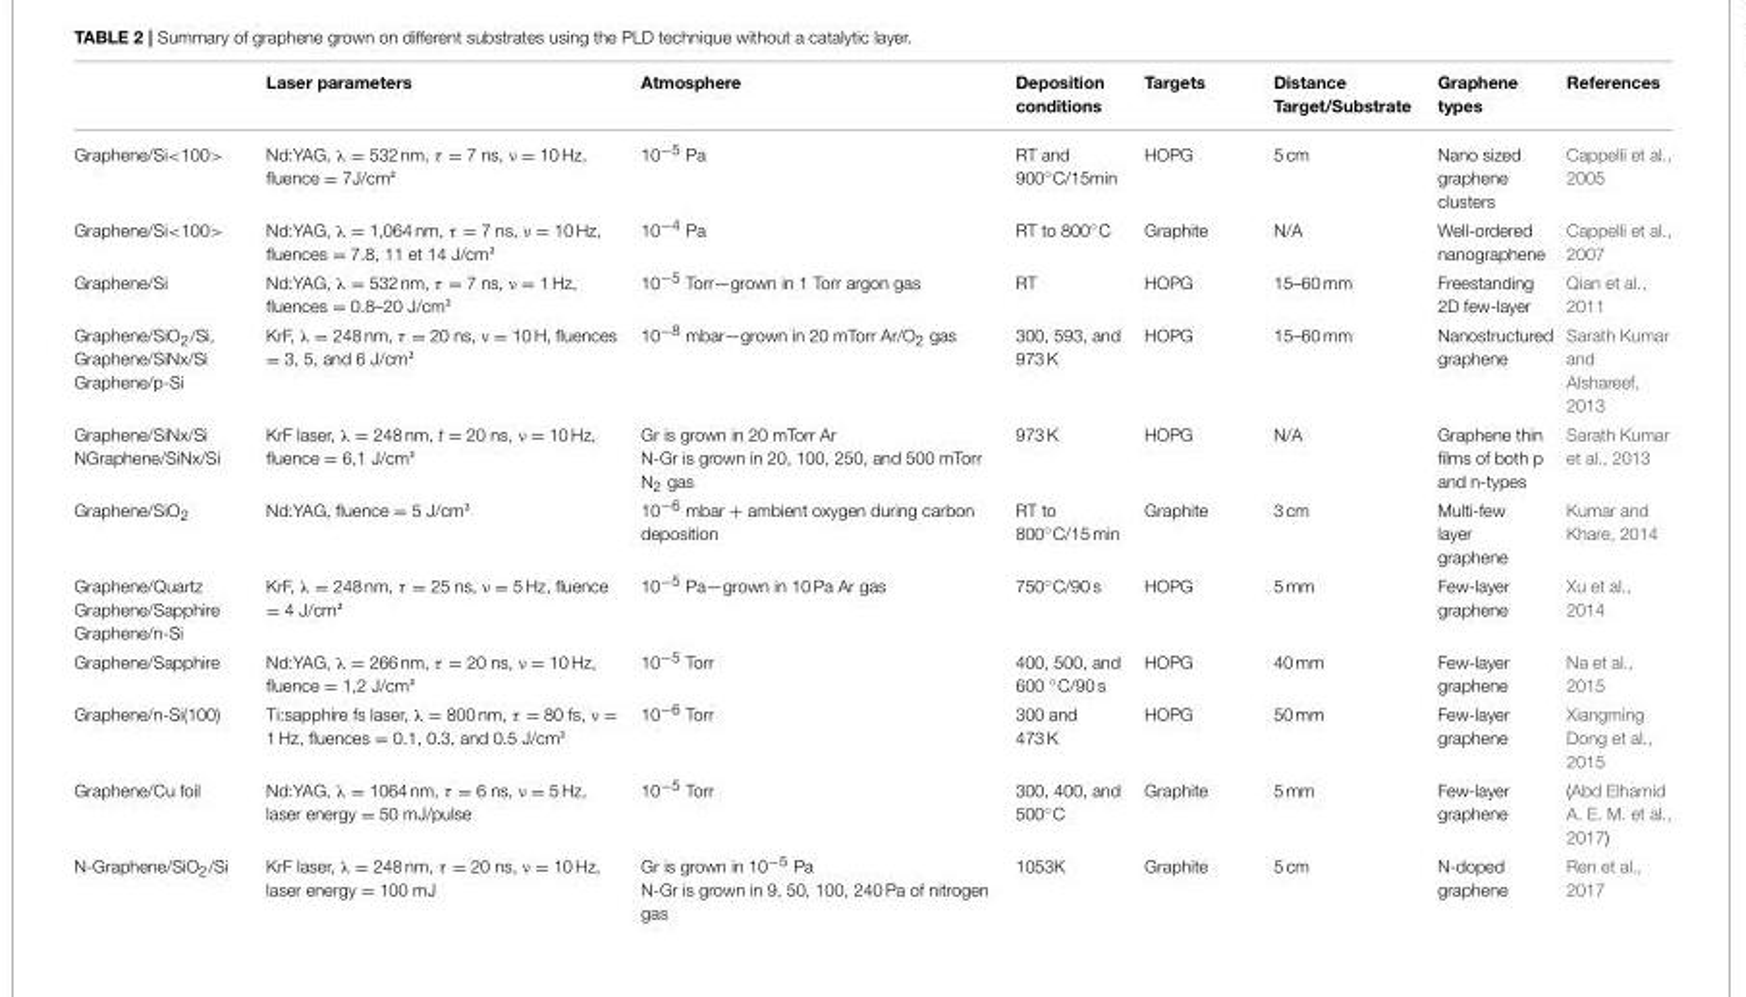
<table><thead><tr><td></td><td>Laser parameters</td><td>Atmosphere</td><td>Deposition conditions</td><td>Targets</td><td>Distance Target/Substrate</td><td>Graphene types</td><td>References</td></tr></thead><tbody><tr><td>Graphene/Si&lt;100&gt;</td><td>Nd:YAG, λ = 532 nm, τ = 7 ns, ν = 10 Hz, fluence = 7J/cm²</td><td>10<sup>−5</sup> Pa</td><td>RT and 900◦C/15min</td><td>HOPG</td><td>5 cm</td><td>Nano sized graphene clusters</td><td>Cappelli et al., 2005</td></tr><tr><td>Graphene/Si&lt;100&gt;</td><td>Nd:YAG, λ = 1,064 nm, τ = 7 ns, ν = 10 Hz, fluences = 7.8, 11 et 14 J/cm²</td><td>10<sup>−4</sup> Pa</td><td>RT to 800◦C</td><td>Graphite</td><td>N/A</td><td>Well-ordered nanographene</td><td>Cappelli et al., 2007</td></tr><tr><td>Graphene/Si</td><td>Nd:YAG, λ = 532 nm, τ = 7 ns, ν = 1 Hz, fluences = 0.8–20 J/cm²</td><td>10<sup>−5</sup> Torr—grown in 1 Torr argon gas</td><td>RT</td><td>HOPG</td><td>15–60 mm</td><td>Freestanding 2D few-layer</td><td>Qian et al., 2011</td></tr><tr><td>Graphene/SiO<sub>2</sub>/Si, Graphene/SiNx/Si Graphene/p-Si</td><td>KrF, λ = 248 nm, τ = 20 ns, ν = 10 H, fluences = 3, 5, and 6 J/cm²</td><td>10<sup>−8</sup> mbar—grown in 20 mTorr Ar/O<sub>2</sub> gas</td><td>300, 593, and 973 K</td><td>HOPG</td><td>15–60 mm</td><td>Nanostructured graphene</td><td>Sarath Kumar and Alshareef, 2013</td></tr><tr><td>Graphene/SiNx/Si NGraphene/SiNx/Si</td><td>KrF laser, λ = 248 nm, t = 20 ns, ν = 10 Hz, fluence = 6,1 J/cm²</td><td>Gr is grown in 20 mTorr Ar N-Gr is grown in 20, 100, 250, and 500 mTorr N<sub>2</sub> gas</td><td>973 K</td><td>HOPG</td><td>N/A</td><td>Graphene thin films of both p and n-types</td><td>Sarath Kumar et al., 2013</td></tr><tr><td>Graphene/SiO<sub>2</sub></td><td>Nd:YAG, fluence = 5 J/cm²</td><td>10<sup>−6</sup> mbar + ambient oxygen during carbon deposition</td><td>RT to 800◦C/15 min</td><td>Graphite</td><td>3 cm</td><td>Multi-few layer graphene</td><td>Kumar and Khare, 2014</td></tr><tr><td>Graphene/Quartz Graphene/Sapphire Graphene/n-Si</td><td>KrF, λ = 248 nm, τ = 25 ns, ν = 5 Hz, fluence = 4 J/cm²</td><td>10<sup>−5</sup> Pa—grown in 10 Pa Ar gas</td><td>750◦C/90 s</td><td>HOPG</td><td>5 mm</td><td>Few-layer graphene</td><td>Xu et al., 2014</td></tr><tr><td>Graphene/Sapphire</td><td>Nd:YAG, λ = 266 nm, τ = 20 ns, ν = 10 Hz, fluence = 1,2 J/cm²</td><td>10<sup>−5</sup> Torr</td><td>400, 500, and 600 ◦C/90 s</td><td>HOPG</td><td>40 mm</td><td>Few-layer graphene</td><td>Na et al., 2015</td></tr><tr><td>Graphene/n-Si(100)</td><td>Ti:sapphire fs laser, λ = 800 nm, τ = 80 fs, ν = 1 Hz, fluences = 0.1, 0.3, and 0.5 J/cm²</td><td>10<sup>−6</sup> Torr</td><td>300 and 473 K</td><td>HOPG</td><td>50 mm</td><td>Few-layer graphene</td><td>Xiangming Dong et al., 2015</td></tr><tr><td>Graphene/Cu foil</td><td>Nd:YAG, λ = 1064 nm, τ = 6 ns, ν = 5 Hz, laser energy = 50 mJ/pulse</td><td>10<sup>−5</sup> Torr</td><td>300, 400, and 500◦C</td><td>Graphite</td><td>5 mm</td><td>Few-layer graphene</td><td>(Abd Elhamid A. E. M. et al., 2017)</td></tr><tr><td>N-Graphene/SiO<sub>2</sub>/Si</td><td>KrF laser, λ = 248 nm, τ = 20 ns, ν = 10 Hz, laser energy = 100 mJ</td><td>Gr is grown in 10<sup>−5</sup> Pa N-Gr is grown in 9, 50, 100, 240 Pa of nitrogen gas</td><td>1053K</td><td>Graphite</td><td>5 cm</td><td>N-doped graphene</td><td>Ren et al., 2017</td></tr></tbody></table>